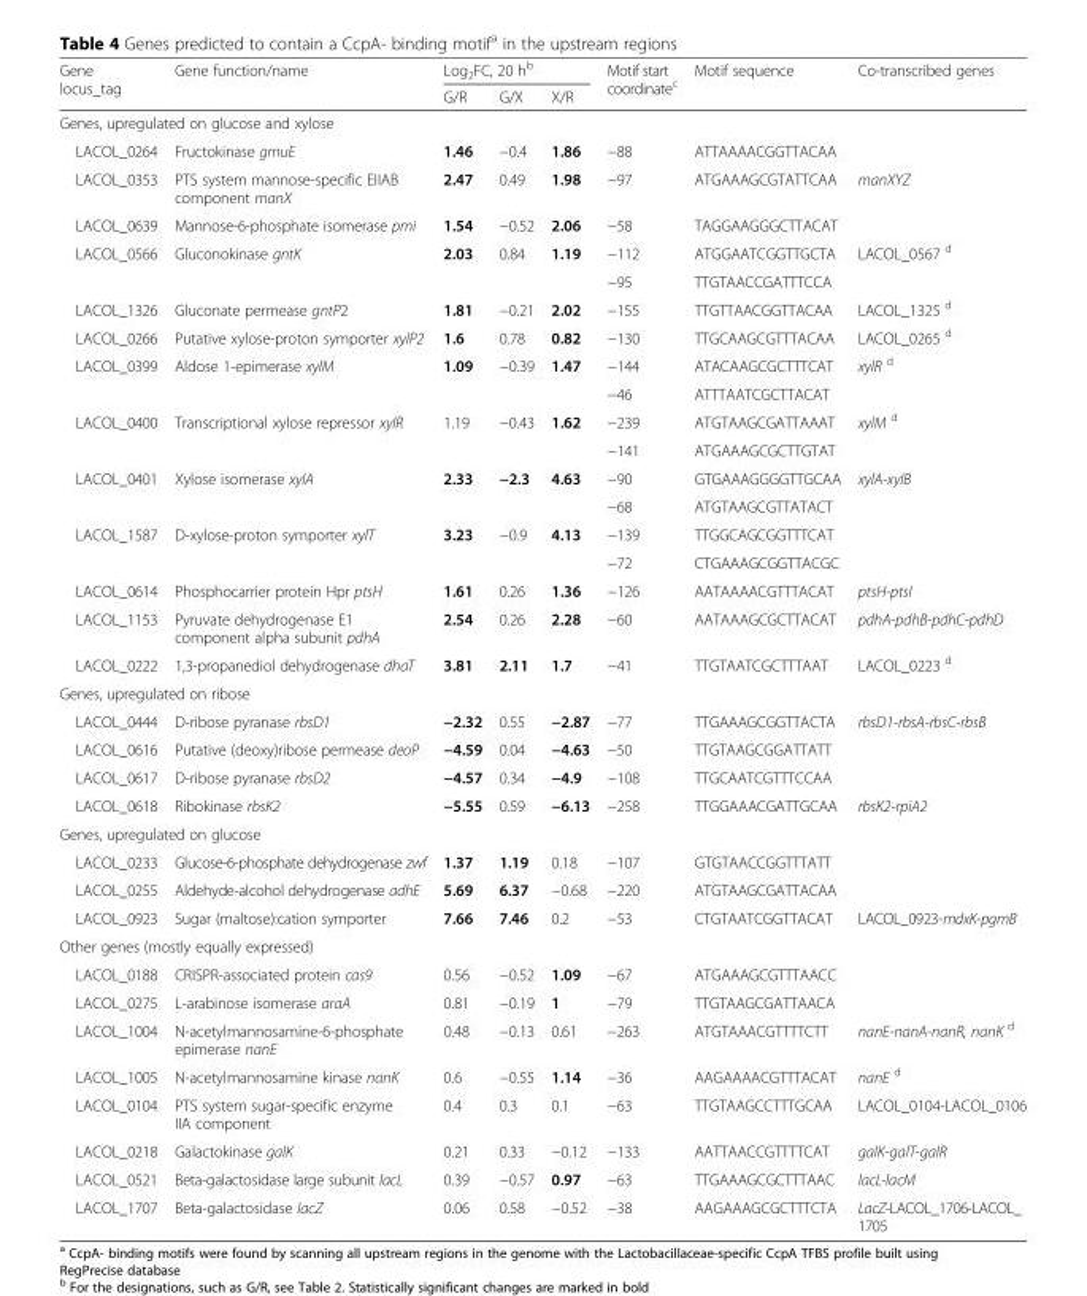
<table><thead><tr><td rowspan="2">Gene locus_tag</td><td rowspan="2">Gene function/name</td><td colspan="3">Log<sub>2</sub>FC, 20 h<sup>b</sup></td><td rowspan="2">Motif start coordinate<sup>c</sup></td><td rowspan="2">Motif sequence</td><td rowspan="2">Co-transcribed genes</td></tr><tr><td>G/R</td><td>G/X</td><td>X/R</td></tr></thead><tbody><tr><td colspan="8">Genes, upregulated on glucose and xylose</td></tr><tr><td>LACOL_0264</td><td>Fructokinase gmuE</td><td>1.46</td><td>−0.4</td><td>1.86</td><td>−88</td><td>ATTAAAACGGTTACAA</td><td></td></tr><tr><td>LACOL_0353</td><td>PTS system mannose-specific EIIAB component manX</td><td>2.47</td><td>0.49</td><td>1.98</td><td>−97</td><td>ATGAAAGCGTATTCAA</td><td>manXYZ</td></tr><tr><td>LACOL_0639</td><td>Mannose-6-phosphate isomerase pmi</td><td>1.54</td><td>−0.52</td><td>2.06</td><td>−58</td><td>TAGGAAGGGCTTACAT</td><td></td></tr><tr><td rowspan="2">LACOL_0566</td><td rowspan="2">Gluconokinase gntK</td><td rowspan="2">2.03</td><td rowspan="2">0.84</td><td rowspan="2">1.19</td><td>−112</td><td>ATGGAATCGGTTGCTA</td><td rowspan="2">LACOL_0567 <sup>d</sup></td></tr><tr><td>−95</td><td>TTGTAACCGATTTCCA</td></tr><tr><td>LACOL_1326</td><td>Gluconate permease gntP2</td><td>1.81</td><td>−0.21</td><td>2.02</td><td>−155</td><td>TTGTTAACGGTTACAA</td><td>LACOL_1325 <sup>d</sup></td></tr><tr><td>LACOL_0266</td><td>Putative xylose-proton symporter xylP2</td><td>1.6</td><td>0.78</td><td>0.82</td><td>−130</td><td>TTGCAAGCGTTTACAA</td><td>LACOL_0265 <sup>d</sup></td></tr><tr><td rowspan="2">LACOL_0399</td><td rowspan="2">Aldose 1-epimerase xylM</td><td rowspan="2">1.09</td><td rowspan="2">−0.39</td><td rowspan="2">1.47</td><td>−144</td><td>ATACAAGCGCTTTCAT</td><td rowspan="2">xylR <sup>d</sup></td></tr><tr><td>−46</td><td>ATTTAATCGCTTACAT</td></tr><tr><td rowspan="2">LACOL_0400</td><td rowspan="2">Transcriptional xylose repressor xylR</td><td rowspan="2">1.19</td><td rowspan="2">−0.43</td><td rowspan="2">1.62</td><td>−239</td><td>ATGTAAGCGATTAAAT</td><td rowspan="2">xylM <sup>d</sup></td></tr><tr><td>−141</td><td>ATGAAAGCGCTTGTAT</td></tr><tr><td rowspan="2">LACOL_0401</td><td rowspan="2">Xylose isomerase xylA</td><td rowspan="2">2.33</td><td rowspan="2">−2.3</td><td rowspan="2">4.63</td><td>−90</td><td>GTGAAAGGGGTTGCAA</td><td rowspan="2">xylA-xylB</td></tr><tr><td>−68</td><td>ATGTAAGCGTTATACT</td></tr><tr><td rowspan="2">LACOL_1587</td><td rowspan="2">D-xylose-proton symporter xylT</td><td rowspan="2">3.23</td><td rowspan="2">−0.9</td><td rowspan="2">4.13</td><td>−139</td><td>TTGGCAGCGGTTTCAT</td><td rowspan="2"></td></tr><tr><td>−72</td><td>CTGAAAGCGGTTACGC</td></tr><tr><td>LACOL_0614</td><td>Phosphocarrier protein Hpr ptsH</td><td>1.61</td><td>0.26</td><td>1.36</td><td>−126</td><td>AATAAAACGTTTACAT</td><td>ptsH-ptsI</td></tr><tr><td>LACOL_1153</td><td>Pyruvate dehydrogenase E1 component alpha subunit pdhA</td><td>2.54</td><td>0.26</td><td>2.28</td><td>−60</td><td>AATAAAGCGCTTACAT</td><td>pdhA-pdhB-pdhC-pdhD</td></tr><tr><td>LACOL_0222</td><td>1,3-propanediol dehydrogenase dhaT</td><td>3.81</td><td>2.11</td><td>1.7</td><td>−41</td><td>TTGTAATCGCTTTAAT</td><td>LACOL_0223 <sup>d</sup></td></tr><tr><td colspan="8">Genes, upregulated on ribose</td></tr><tr><td>LACOL_0444</td><td>D-ribose pyranase rbsD1</td><td>−2.32</td><td>0.55</td><td>−2.87</td><td>−77</td><td>TTGAAAGCGGTTACTA</td><td>rbsD1-rbsA-rbsC-rbsB</td></tr><tr><td>LACOL_0616</td><td>Putative (deoxy)ribose permease deoP</td><td>−4.59</td><td>0.04</td><td>−4.63</td><td>−50</td><td>TTGTAAGCGGATTATT</td><td></td></tr><tr><td>LACOL_0617</td><td>D-ribose pyranase rbsD2</td><td>−4.57</td><td>0.34</td><td>−4.9</td><td>−108</td><td>TTGCAATCGTTTCCAA</td><td></td></tr><tr><td>LACOL_0618</td><td>Ribokinase rbsK2</td><td>−5.55</td><td>0.59</td><td>−6.13</td><td>−258</td><td>TTGGAAACGATTGCAA</td><td>rbsK2-rpiA2</td></tr><tr><td colspan="8">Genes, upregulated on glucose</td></tr><tr><td>LACOL_0233</td><td>Glucose-6-phosphate dehydrogenase zwf</td><td>1.37</td><td>1.19</td><td>0.18</td><td>−107</td><td>GTGTAACCGGTTTATT</td><td></td></tr><tr><td>LACOL_0255</td><td>Aldehyde-alcohol dehydrogenase adhE</td><td>5.69</td><td>6.37</td><td>−0.68</td><td>−220</td><td>ATGTAAGCGATTACAA</td><td></td></tr><tr><td>LACOL_0923</td><td>Sugar (maltose):cation symporter</td><td>7.66</td><td>7.46</td><td>0.2</td><td>−53</td><td>CTGTAATCGGTTACAT</td><td>LACOL_0923-mdxK-pgmB</td></tr><tr><td colspan="8">Other genes (mostly equally expressed)</td></tr><tr><td>LACOL_0188</td><td>CRISPR-associated protein cas9</td><td>0.56</td><td>−0.52</td><td>1.09</td><td>−67</td><td>ATGAAAGCGTTTAACC</td><td></td></tr><tr><td>LACOL_0275</td><td>L-arabinose isomerase araA</td><td>0.81</td><td>−0.19</td><td>1</td><td>−79</td><td>TTGTAAGCGATTAACA</td><td></td></tr><tr><td>LACOL_1004</td><td>N-acetylmannosamine-6-phosphate epimerase nanE</td><td>0.48</td><td>−0.13</td><td>0.61</td><td>−263</td><td>ATGTAAACGTTTTCTT</td><td>nanE-nanA-nanR, nanK <sup>d</sup></td></tr><tr><td>LACOL_1005</td><td>N-acetylmannosamine kinase nanK</td><td>0.6</td><td>−0.55</td><td>1.14</td><td>−36</td><td>AAGAAAACGTTTACAT</td><td>nanE <sup>d</sup></td></tr><tr><td>LACOL_0104</td><td>PTS system sugar-specific enzyme IIA component</td><td>0.4</td><td>0.3</td><td>0.1</td><td>−63</td><td>TTGTAAGCCTTTGCAA</td><td>LACOL_0104-LACOL_0106</td></tr><tr><td>LACOL_0218</td><td>Galactokinase galK</td><td>0.21</td><td>0.33</td><td>−0.12</td><td>−133</td><td>AATTAACCGTTTTCAT</td><td>galK-galT-galR</td></tr><tr><td>LACOL_0521</td><td>Beta-galactosidase large subunit lacL</td><td>0.39</td><td>−0.57</td><td>0.97</td><td>−63</td><td>TTGAAAGCGCTTTAAC</td><td>lacL-lacM</td></tr><tr><td>LACOL_1707</td><td>Beta-galactosidase lacZ</td><td>0.06</td><td>0.58</td><td>−0.52</td><td>−38</td><td>AAGAAAGCGCTTTCTA</td><td>LacZ-LACOL_1706-LACOL_ 1705</td></tr></tbody></table>